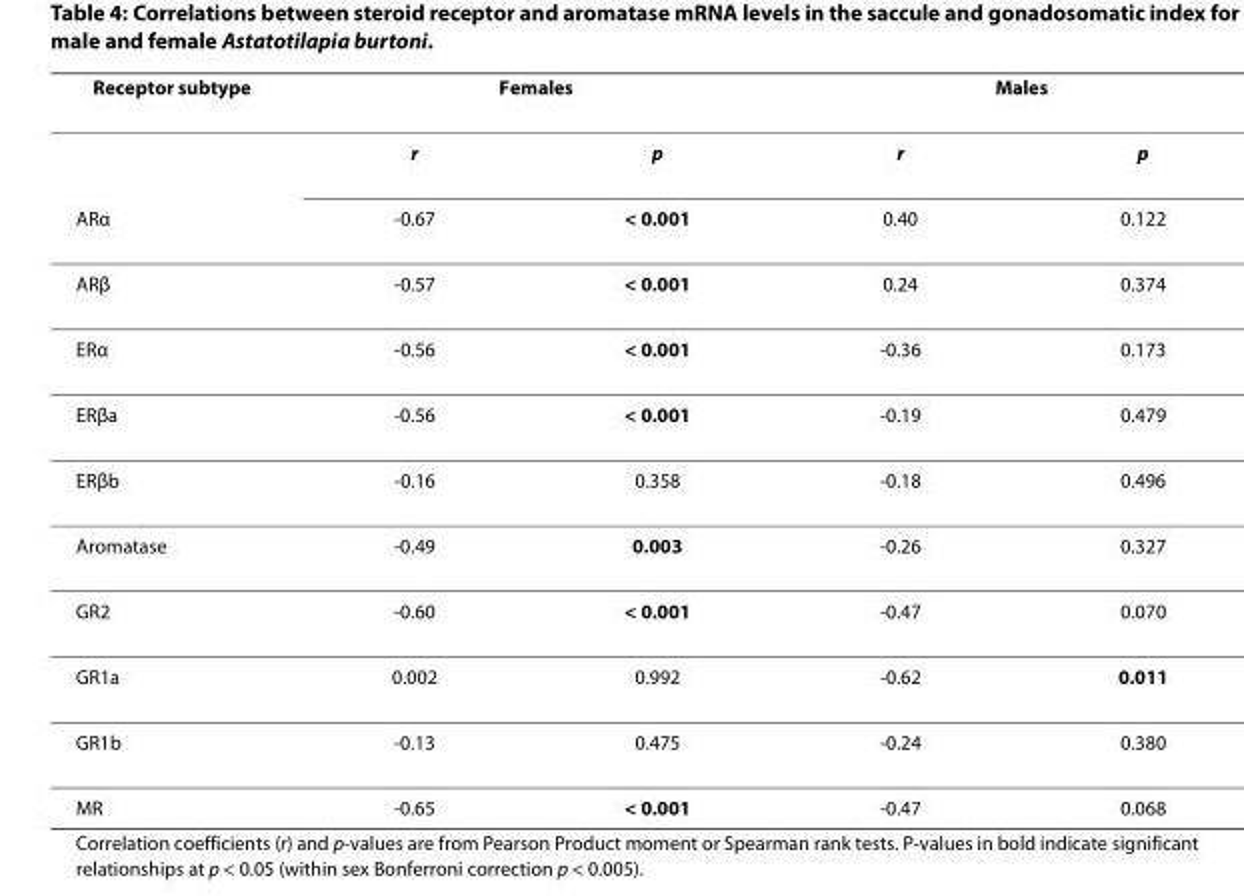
<table><thead><tr><td rowspan="2">Receptor subtype</td><td colspan="2">Females</td><td colspan="2">Males</td></tr><tr><td>r</td><td>p</td><td>r</td><td>p</td></tr></thead><tbody><tr><td>ARα</td><td>-0.67</td><td>&lt; 0.001</td><td>0.40</td><td>0.122</td></tr><tr><td>ARβ</td><td>-0.57</td><td>&lt; 0.001</td><td>0.24</td><td>0.374</td></tr><tr><td>ERα</td><td>-0.56</td><td>&lt; 0.001</td><td>-0.36</td><td>0.173</td></tr><tr><td>ERβa</td><td>-0.56</td><td>&lt; 0.001</td><td>-0.19</td><td>0.479</td></tr><tr><td>ERβb</td><td>-0.16</td><td>0.358</td><td>-0.18</td><td>0.496</td></tr><tr><td>Aromatase</td><td>-0.49</td><td>0.003</td><td>-0.26</td><td>0.327</td></tr><tr><td>GR2</td><td>-0.60</td><td>&lt; 0.001</td><td>-0.47</td><td>0.070</td></tr><tr><td>GR1a</td><td>0.002</td><td>0.992</td><td>-0.62</td><td>0.011</td></tr><tr><td>GR1b</td><td>-0.13</td><td>0.475</td><td>-0.24</td><td>0.380</td></tr><tr><td>MR</td><td>-0.65</td><td>&lt; 0.001</td><td>-0.47</td><td>0.068</td></tr></tbody></table>